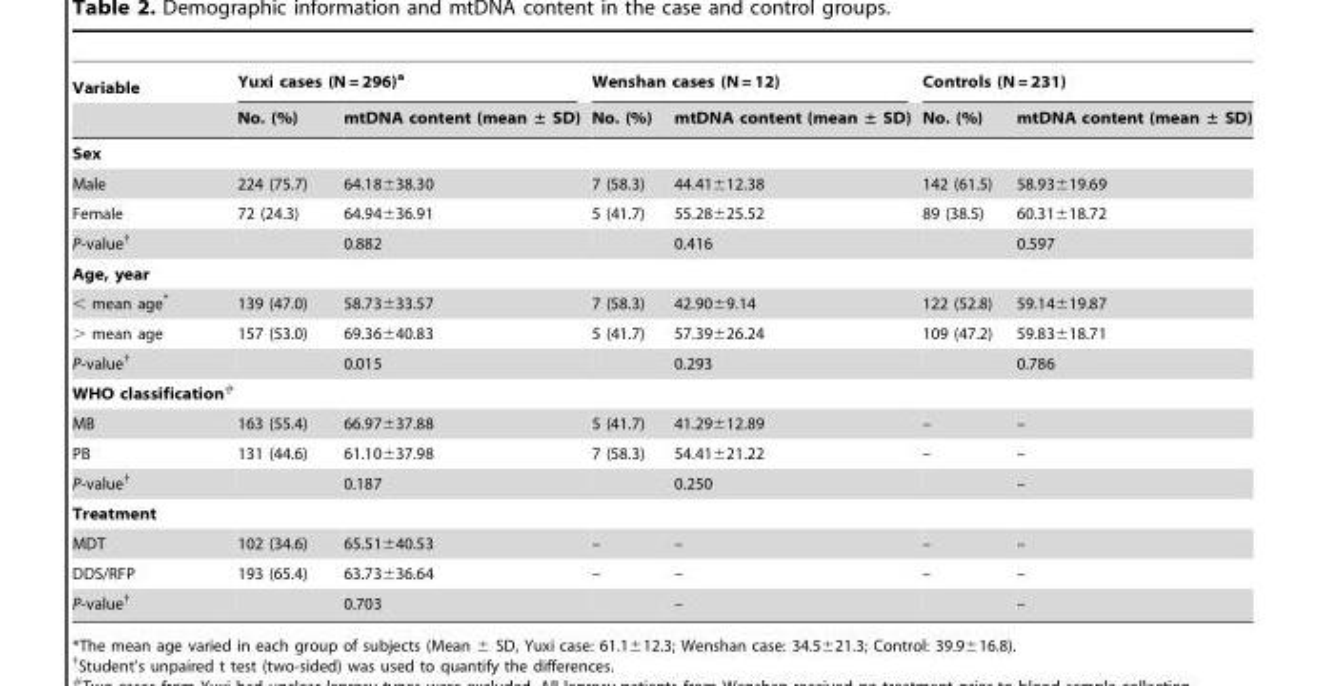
<table><thead><tr><td rowspan="2">Variable</td><td colspan="2">Yuxi cases (N = 296)<sup>a</sup></td><td colspan="2">Wenshan cases (N = 12)</td><td colspan="2">Controls (N = 231)</td></tr><tr><td>No. (%)</td><td>mtDNA content (mean ± SD)</td><td>No. (%)</td><td>mtDNA content (mean ± SD)</td><td>No. (%)</td><td>mtDNA content (mean ± SD)</td></tr></thead><tbody><tr><td colspan="7">Sex</td></tr><tr><td>Male</td><td>224 (75.7)</td><td>64.18±38.30</td><td>7 (58.3)</td><td>44.41±12.38</td><td>142 (61.5)</td><td>58.93±19.69</td></tr><tr><td>Female</td><td>72 (24.3)</td><td>64.94±36.91</td><td>5 (41.7)</td><td>55.28±25.52</td><td>89 (38.5)</td><td>60.31±18.72</td></tr><tr><td>P-value†</td><td></td><td>0.882</td><td></td><td>0.416</td><td></td><td>0.597</td></tr><tr><td colspan="7">Age, year</td></tr><tr><td>&lt; mean age*</td><td>139 (47.0)</td><td>58.73±33.57</td><td>7 (58.3)</td><td>42.90±9.14</td><td>122 (52.8)</td><td>59.14±19.87</td></tr><tr><td>&gt; mean age</td><td>157 (53.0)</td><td>69.36±40.83</td><td>5 (41.7)</td><td>57.39±26.24</td><td>109 (47.2)</td><td>59.83±18.71</td></tr><tr><td>P-value†</td><td></td><td>0.015</td><td></td><td>0.293</td><td></td><td>0.786</td></tr><tr><td colspan="7">WHO classification#</td></tr><tr><td>MB</td><td>163 (55.4)</td><td>66.97±37.88</td><td>5 (41.7)</td><td>41.29±12.89</td><td>–</td><td>–</td></tr><tr><td>PB</td><td>131 (44.6)</td><td>61.10±37.98</td><td>7 (58.3)</td><td>54.41±21.22</td><td>–</td><td>–</td></tr><tr><td>P-value†</td><td></td><td>0.187</td><td></td><td>0.250</td><td></td><td>–</td></tr><tr><td colspan="7">Treatment</td></tr><tr><td>MDT</td><td>102 (34.6)</td><td>65.51±40.53</td><td>–</td><td>–</td><td>–</td><td>–</td></tr><tr><td>DDS/RFP</td><td>193 (65.4)</td><td>63.73±36.64</td><td>–</td><td>–</td><td>–</td><td>–</td></tr><tr><td>P-value†</td><td></td><td>0.703</td><td></td><td>–</td><td></td><td>–</td></tr></tbody></table>